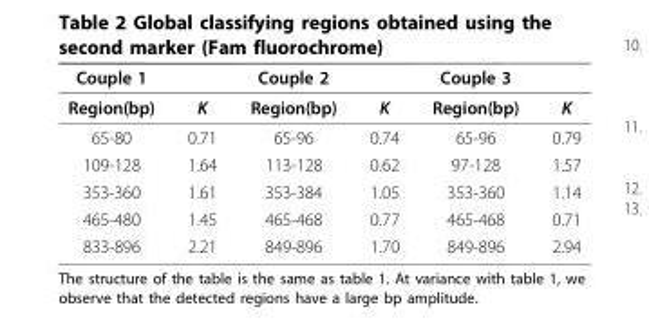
<table><thead><tr><td>Couple 1</td><td></td><td>Couple 2</td><td></td><td>Couple 3</td><td></td></tr></thead><tbody><tr><td>Region(bp)</td><td>K</td><td>Region(bp)</td><td>K</td><td>Region(bp)</td><td>K</td></tr><tr><td>65-80</td><td>0.71</td><td>65-96</td><td>0.74</td><td>65-96</td><td>0.79</td></tr><tr><td>109-128</td><td>1.64</td><td>113-128</td><td>0.62</td><td>97-128</td><td>1.57</td></tr><tr><td>353-360</td><td>1.61</td><td>353-384</td><td>1.05</td><td>353-360</td><td>1.14</td></tr><tr><td>465-480</td><td>1.45</td><td>465-468</td><td>0.77</td><td>465-468</td><td>0.71</td></tr><tr><td>833-896</td><td>2.21</td><td>849-896</td><td>1.70</td><td>849-896</td><td>2.94</td></tr></tbody></table>